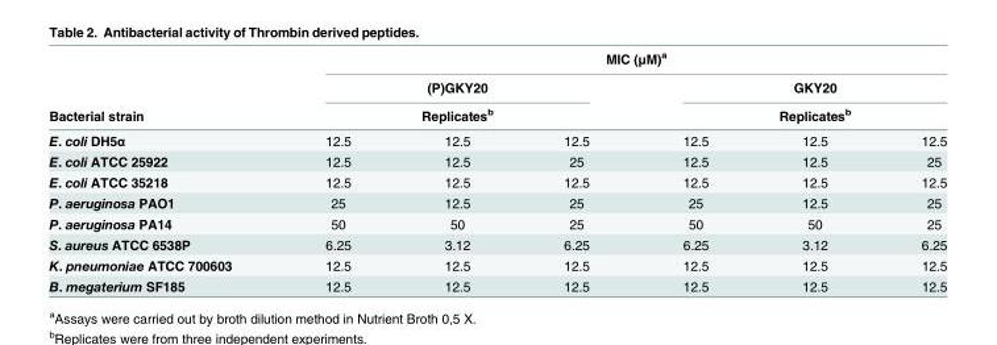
<table><thead><tr><td rowspan="4">Bacterial strain E. coli DH5α</td><td colspan="6">MIC (μM)<sup>a</sup></td></tr><tr><td rowspan="2" colspan="3">(P)GKY20 Replicates<sup>b</sup></td><td rowspan="2" colspan="3">GKY20 Replicates<sup>b</sup></td></tr><tr></tr><tr><td>12.5</td><td>12.5</td><td>12.5</td><td>12.5</td><td>12.5</td><td>12.5</td></tr></thead><tbody><tr><td>E. coli ATCC 25922</td><td>12.5</td><td>12.5</td><td>25</td><td>12.5</td><td>12.5</td><td>25</td></tr><tr><td>E. coli ATCC 35218</td><td>12.5</td><td>12.5</td><td>12.5</td><td>12.5</td><td>12.5</td><td>12.5</td></tr><tr><td>P. aeruginosa PAO1</td><td>25</td><td>12.5</td><td>25</td><td>25</td><td>12.5</td><td>25</td></tr><tr><td>P. aeruginosa PA14</td><td>50</td><td>50</td><td>25</td><td>50</td><td>50</td><td>25</td></tr><tr><td>S. aureus ATCC 6538P</td><td>6.25</td><td>3.12</td><td>6.25</td><td>6.25</td><td>3.12</td><td>6.25</td></tr><tr><td>K. pneumoniae ATCC 700603</td><td>12.5</td><td>12.5</td><td>12.5</td><td>12.5</td><td>12.5</td><td>12.5</td></tr><tr><td>B. megaterium SF185</td><td>12.5</td><td>12.5</td><td>12.5</td><td>12.5</td><td>12.5</td><td>12.5</td></tr></tbody></table>